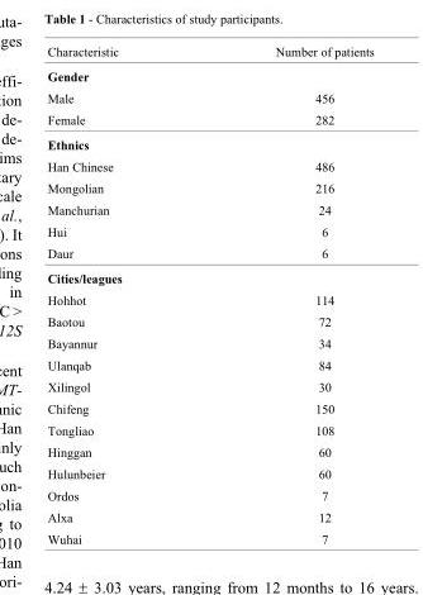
<table><thead><tr><td>Characteristic</td><td>Number of patients</td></tr></thead><tbody><tr><td colspan="2">Gender</td></tr><tr><td>Male</td><td>456</td></tr><tr><td>Female</td><td>282</td></tr><tr><td colspan="2">Ethnics</td></tr><tr><td>Han Chinese</td><td>486</td></tr><tr><td>Mongolian</td><td>216</td></tr><tr><td>Manchurian</td><td>24</td></tr><tr><td>Hui</td><td>6</td></tr><tr><td>Daur</td><td>6</td></tr><tr><td colspan="2">Cities/leagues</td></tr><tr><td>Hohhot</td><td>114</td></tr><tr><td>Baotou</td><td>72</td></tr><tr><td>Bayannur</td><td>34</td></tr><tr><td>Ulanqab</td><td>84</td></tr><tr><td>Xilingol</td><td>30</td></tr><tr><td>Chifeng</td><td>150</td></tr><tr><td>Tongliao</td><td>108</td></tr><tr><td>Hinggan</td><td>60</td></tr><tr><td>Hulunbeier</td><td>60</td></tr><tr><td>Ordos</td><td>7</td></tr><tr><td>Alxa</td><td>12</td></tr><tr><td>Wuhai</td><td>7</td></tr></tbody></table>